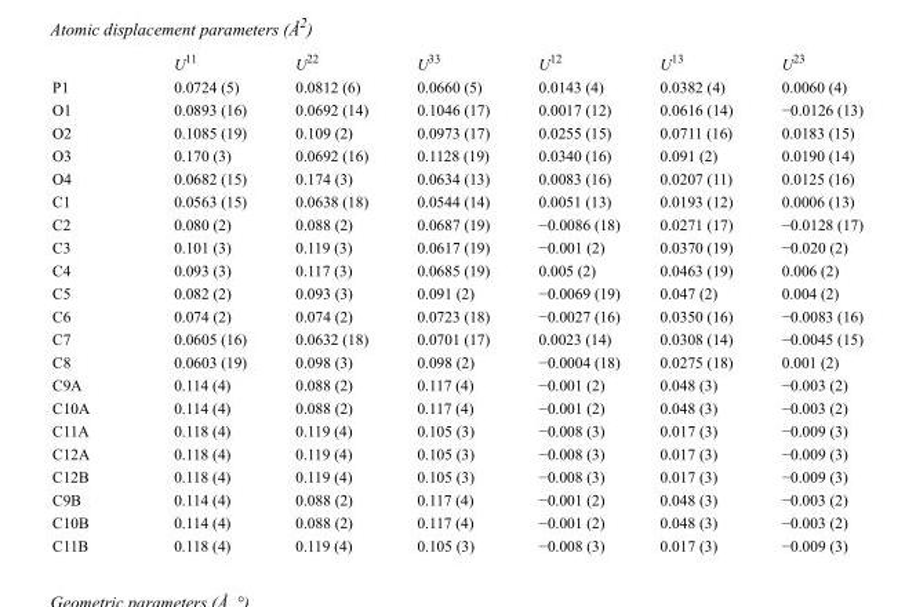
<table><thead><tr><td></td><td>U<sup>11</sup></td><td>U<sup>22</sup></td><td>U<sup>33</sup></td><td>U<sup>12</sup></td><td>U<sup>13</sup></td><td>U<sup>23</sup></td></tr></thead><tbody><tr><td>P1</td><td>0.0724 (5)</td><td>0.0812 (6)</td><td>0.0660 (5)</td><td>0.0143 (4)</td><td>0.0382 (4)</td><td>0.0060 (4)</td></tr><tr><td>O1</td><td>0.0893 (16)</td><td>0.0692 (14)</td><td>0.1046 (17)</td><td>0.0017 (12)</td><td>0.0616 (14)</td><td>−0.0126 (13)</td></tr><tr><td>O2</td><td>0.1085 (19)</td><td>0.109 (2)</td><td>0.0973 (17)</td><td>0.0255 (15)</td><td>0.0711 (16)</td><td>0.0183 (15)</td></tr><tr><td>O3</td><td>0.170 (3)</td><td>0.0692 (16)</td><td>0.1128 (19)</td><td>0.0340 (16)</td><td>0.091 (2)</td><td>0.0190 (14)</td></tr><tr><td>O4</td><td>0.0682 (15)</td><td>0.174 (3)</td><td>0.0634 (13)</td><td>0.0083 (16)</td><td>0.0207 (11)</td><td>0.0125 (16)</td></tr><tr><td>C1</td><td>0.0563 (15)</td><td>0.0638 (18)</td><td>0.0544 (14)</td><td>0.0051 (13)</td><td>0.0193 (12)</td><td>0.0006 (13)</td></tr><tr><td>C2</td><td>0.080 (2)</td><td>0.088 (2)</td><td>0.0687 (19)</td><td>−0.0086 (18)</td><td>0.0271 (17)</td><td>−0.0128 (17)</td></tr><tr><td>C3</td><td>0.101 (3)</td><td>0.119 (3)</td><td>0.0617 (19)</td><td>−0.001 (2)</td><td>0.0370 (19)</td><td>−0.020 (2)</td></tr><tr><td>C4</td><td>0.093 (3)</td><td>0.117 (3)</td><td>0.0685 (19)</td><td>0.005 (2)</td><td>0.0463 (19)</td><td>0.006 (2)</td></tr><tr><td>C5</td><td>0.082 (2)</td><td>0.093 (3)</td><td>0.091 (2)</td><td>−0.0069 (19)</td><td>0.047 (2)</td><td>0.004 (2)</td></tr><tr><td>C6</td><td>0.074 (2)</td><td>0.074 (2)</td><td>0.0723 (18)</td><td>−0.0027 (16)</td><td>0.0350 (16)</td><td>−0.0083 (16)</td></tr><tr><td>C7</td><td>0.0605 (16)</td><td>0.0632 (18)</td><td>0.0701 (17)</td><td>0.0023 (14)</td><td>0.0308 (14)</td><td>−0.0045 (15)</td></tr><tr><td>C8</td><td>0.0603 (19)</td><td>0.098 (3)</td><td>0.098 (2)</td><td>−0.0004 (18)</td><td>0.0275 (18)</td><td>0.001 (2)</td></tr><tr><td>C9A</td><td>0.114 (4)</td><td>0.088 (2)</td><td>0.117 (4)</td><td>−0.001 (2)</td><td>0.048 (3)</td><td>−0.003 (2)</td></tr><tr><td>C10A</td><td>0.114 (4)</td><td>0.088 (2)</td><td>0.117 (4)</td><td>−0.001 (2)</td><td>0.048 (3)</td><td>−0.003 (2)</td></tr><tr><td>C11A</td><td>0.118 (4)</td><td>0.119 (4)</td><td>0.105 (3)</td><td>−0.008 (3)</td><td>0.017 (3)</td><td>−0.009 (3)</td></tr><tr><td>C12A</td><td>0.118 (4)</td><td>0.119 (4)</td><td>0.105 (3)</td><td>−0.008 (3)</td><td>0.017 (3)</td><td>−0.009 (3)</td></tr><tr><td>C12B</td><td>0.118 (4)</td><td>0.119 (4)</td><td>0.105 (3)</td><td>−0.008 (3)</td><td>0.017 (3)</td><td>−0.009 (3)</td></tr><tr><td>C9B</td><td>0.114 (4)</td><td>0.088 (2)</td><td>0.117 (4)</td><td>−0.001 (2)</td><td>0.048 (3)</td><td>−0.003 (2)</td></tr><tr><td>C10B</td><td>0.114 (4)</td><td>0.088 (2)</td><td>0.117 (4)</td><td>−0.001 (2)</td><td>0.048 (3)</td><td>−0.003 (2)</td></tr><tr><td>C11B</td><td>0.118 (4)</td><td>0.119 (4)</td><td>0.105 (3)</td><td>−0.008 (3)</td><td>0.017 (3)</td><td>−0.009 (3)</td></tr></tbody></table>